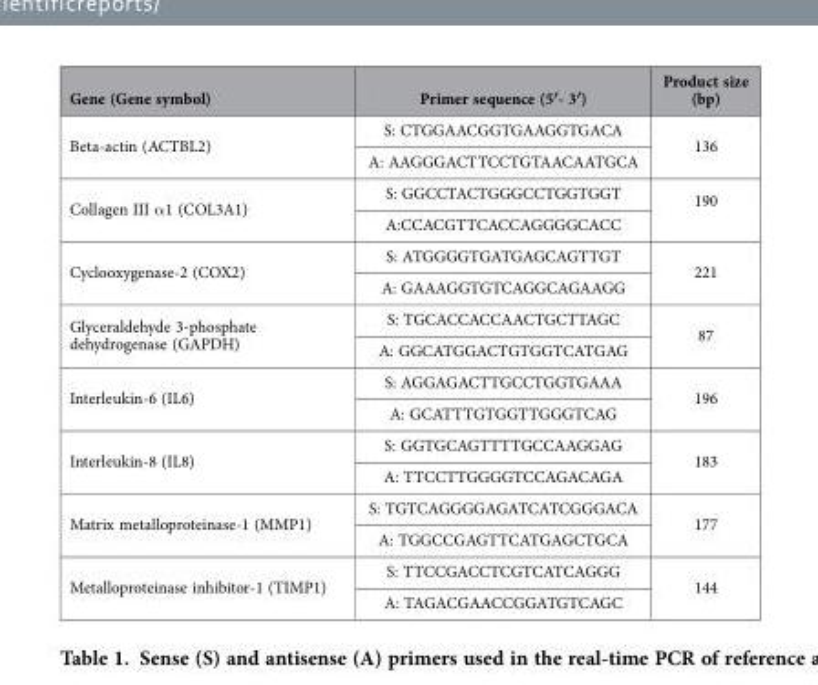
<table><thead><tr><td>Gene (Gene symbol)</td><td>Primer sequence (5′- 3′)</td><td>Product size (bp)</td></tr></thead><tbody><tr><td rowspan="2">Beta-actin (ACTBL2)</td><td>S: CTGGAACGGTGAAGGTGACA</td><td rowspan="2">136</td></tr><tr><td>A: AAGGGACTTCCTGTAACAATGCA</td></tr><tr><td rowspan="2">Collagen III α 1 (COL3A1)</td><td>S: GGCCTACTGGGCCTGGTGGT</td><td rowspan="2">190</td></tr><tr><td>A:CCACGTTCACCAGGGGCACC</td></tr><tr><td rowspan="2">Cyclooxygenase-2 (COX2)</td><td>S: ATGGGGTGATGAGCAGTTGT</td><td rowspan="2">221</td></tr><tr><td>A: GAAAGGTGTCAGGCAGAAGG</td></tr><tr><td rowspan="2">Glyceraldehyde 3-phosphate dehydrogenase (GAPDH)</td><td>S: TGCACCACCAACTGCTTAGC</td><td rowspan="2">87</td></tr><tr><td>A: GGCATGGACTGTGGTCATGAG</td></tr><tr><td rowspan="2">Interleukin-6 (IL6)</td><td>S: AGGAGACTTGCCTGGTGAAA</td><td rowspan="2">196</td></tr><tr><td>A: GCATTTGTGGTTGGGTCAG</td></tr><tr><td rowspan="2">Interleukin-8 (IL8)</td><td>S: GGTGCAGTTTTGCCAAGGAG</td><td rowspan="2">183</td></tr><tr><td>A: TTCCTTGGGGTCCAGACAGA</td></tr><tr><td rowspan="2">Matrix metalloproteinase-1 (MMP1)</td><td>S: TGTCAGGGGAGATCATCGGGACA</td><td rowspan="2">177</td></tr><tr><td>A: TGGCCGAGTTCATGAGCTGCA</td></tr><tr><td rowspan="2">Metalloproteinase inhibitor-1 (TIMP1)</td><td>S: TTCCGACCTCGTCATCAGGG</td><td rowspan="2">144</td></tr><tr><td>A: TAGACGAACCGGATGTCAGC</td></tr></tbody></table>